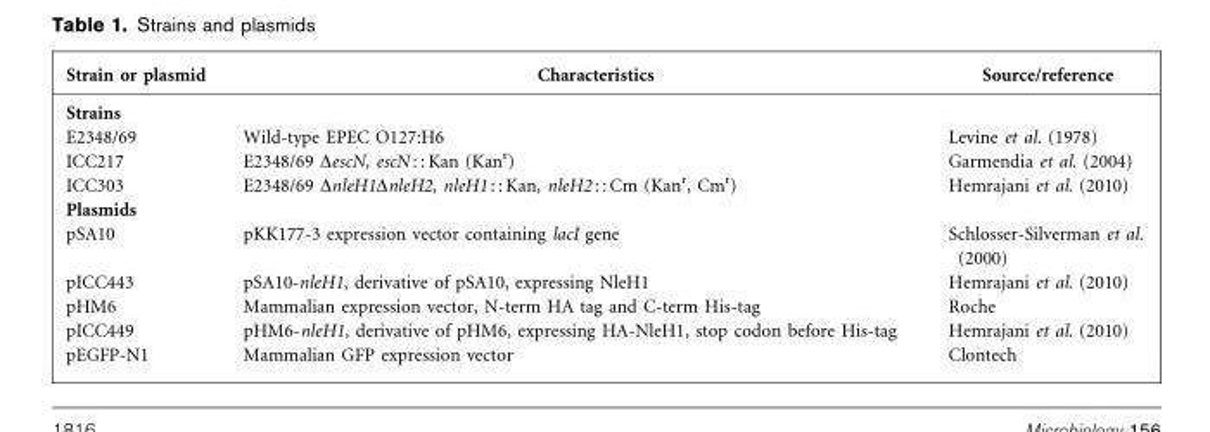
<table><thead><tr><td>Strain or plasmid</td><td>Characteristics</td><td>Source/reference</td></tr></thead><tbody><tr><td colspan="3">Strains</td></tr><tr><td>E2348/69</td><td>Wild-type EPEC O127:H6</td><td>Levine et al. (1978)</td></tr><tr><td>ICC217</td><td>E2348/69 ΔescN, escN : : Kan (Kan<sup>r</sup>)</td><td>Garmendia et al. (2004)</td></tr><tr><td>ICC303</td><td>E2348/69 ΔnleH1ΔnleH2, nleH1 : : Kan, nleH2 : : Cm (Kan<sup>r</sup>, Cm<sup>r</sup>)</td><td>Hemrajani et al. (2010)</td></tr><tr><td colspan="3">Plasmids</td></tr><tr><td>pSA10</td><td>pKK177-3 expression vector containing lacI gene</td><td>Schlosser-Silverman et al. (2000)</td></tr><tr><td>pICC443</td><td>pSA10-nleH1, derivative of pSA10, expressing NleH1</td><td>Hemrajani et al. (2010)</td></tr><tr><td>pHM6</td><td>Mammalian expression vector, N-term HA tag and C-term His-tag</td><td>Roche</td></tr><tr><td>pICC449</td><td>pHM6-nleH1, derivative of pHM6, expressing HA-NleH1, stop codon before His-tag</td><td>Hemrajani et al. (2010)</td></tr><tr><td>pEGFP-N1</td><td>Mammalian GFP expression vector</td><td>Clontech</td></tr></tbody></table>